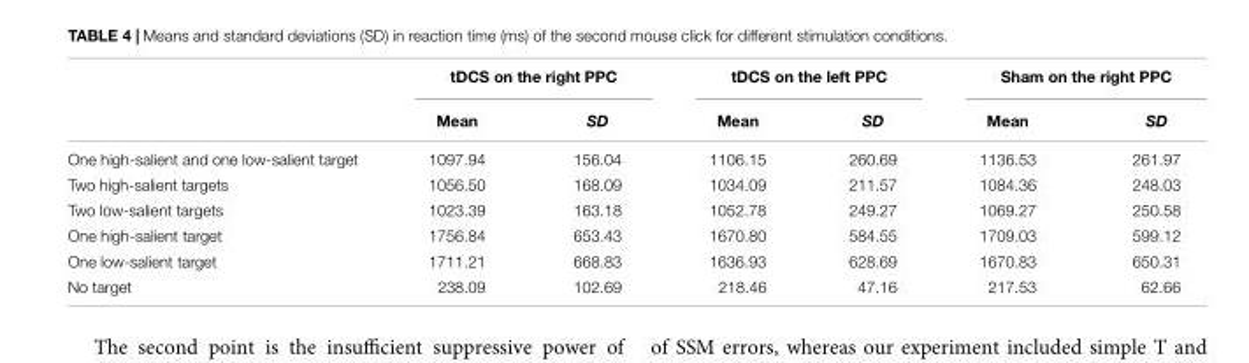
<table><thead><tr><td rowspan="2"></td><td colspan="2">tDCS on the right PPC</td><td colspan="2">tDCS on the left PPC</td><td colspan="2">Sham on the right PPC</td></tr><tr><td>Mean</td><td>SD</td><td>Mean</td><td>SD</td><td>Mean</td><td>SD</td></tr></thead><tbody><tr><td>One high-salient and one low-salient target</td><td>1097.94</td><td>156.04</td><td>1106.15</td><td>260.69</td><td>1136.53</td><td>261.97</td></tr><tr><td>Two high-salient targets</td><td>1056.50</td><td>168.09</td><td>1034.09</td><td>211.57</td><td>1084.36</td><td>248.03</td></tr><tr><td>Two low-salient targets</td><td>1023.39</td><td>163.18</td><td>1052.78</td><td>249.27</td><td>1069.27</td><td>250.58</td></tr><tr><td>One high-salient target</td><td>1756.84</td><td>653.43</td><td>1670.80</td><td>584.55</td><td>1709.03</td><td>599.12</td></tr><tr><td>One low-salient target</td><td>1711.21</td><td>668.83</td><td>1636.93</td><td>628.69</td><td>1670.83</td><td>650.31</td></tr><tr><td>No target</td><td>238.09</td><td>102.69</td><td>218.46</td><td>47.16</td><td>217.53</td><td>62.66</td></tr></tbody></table>